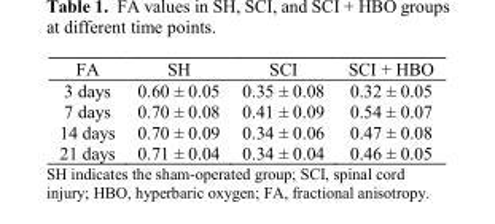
<table><thead><tr><td>FA</td><td>SH</td><td>SCI</td><td>SCI + HBO</td></tr></thead><tbody><tr><td>3 days</td><td>0.60 ± 0.05</td><td>0.35 ± 0.08</td><td>0.32 ± 0.05</td></tr><tr><td>7 days</td><td>0.70 ± 0.08</td><td>0.41 ± 0.09</td><td>0.54 ± 0.07</td></tr><tr><td>14 days</td><td>0.70 ± 0.09</td><td>0.34 ± 0.06</td><td>0.47 ± 0.08</td></tr><tr><td>21 days</td><td>0.71 ± 0.04</td><td>0.34 ± 0.04</td><td>0.46 ± 0.05</td></tr></tbody></table>